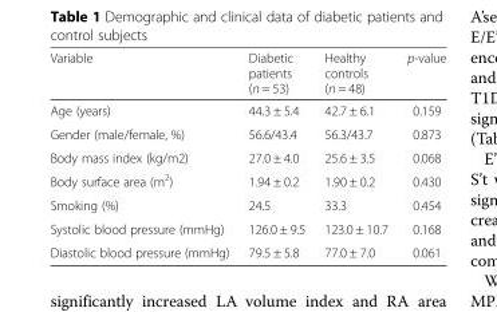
<table><thead><tr><td>Variable</td><td>Diabetic patients (n = 53)</td><td>Healthy controls (n = 48)</td><td>p-value</td></tr></thead><tbody><tr><td>Age (years)</td><td>44.3 ± 5.4</td><td>42.7 ± 6.1</td><td>0.159</td></tr><tr><td>Gender (male/female, %)</td><td>56.6/43.4</td><td>56.3/43.7</td><td>0.873</td></tr><tr><td>Body mass index (kg/m2)</td><td>27.0 ± 4.0</td><td>25.6 ± 3.5</td><td>0.068</td></tr><tr><td>Body surface area (m<sup>2</sup>)</td><td>1.94 ± 0.2</td><td>1.90 ± 0.2</td><td>0.430</td></tr><tr><td>Smoking (%)</td><td>24.5</td><td>33.3</td><td>0.454</td></tr><tr><td>Systolic blood pressure (mmHg)</td><td>126.0 ± 9.5</td><td>123.0 ± 10.7</td><td>0.168</td></tr><tr><td>Diastolic blood pressure (mmHg)</td><td>79.5 ± 5.8</td><td>77.0 ± 7.0</td><td>0.061</td></tr></tbody></table>